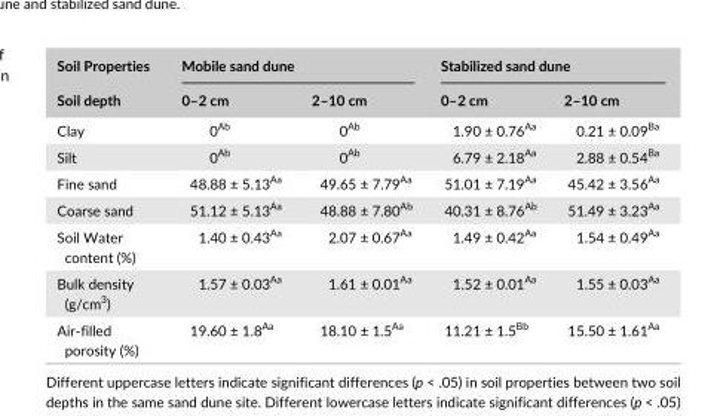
<table><thead><tr><td rowspan="2">Soil Properties Soil depth</td><td colspan="2">Mobile sand dune</td><td colspan="2">Stabilized sand dune</td></tr><tr><td>0–2 cm</td><td>2–10 cm</td><td>0–2 cm</td><td>2–10 cm</td></tr></thead><tbody><tr><td>Clay</td><td>0<sup>Ab</sup></td><td>0<sup>Ab</sup></td><td>1.90 ± 0.76<sup>Aa</sup></td><td>0.21 ± 0.09<sup>Ba</sup></td></tr><tr><td>Silt</td><td>0<sup>Ab</sup></td><td>0<sup>Ab</sup></td><td>6.79 ± 2.18<sup>Aa</sup></td><td>2.88 ± 0.54<sup>Ba</sup></td></tr><tr><td>Fine sand</td><td>48.88 ± 5.13<sup>Aa</sup></td><td>49.65 ± 7.79<sup>Aa</sup></td><td>51.01 ± 7.19<sup>Aa</sup></td><td>45.42 ± 3.56<sup>Aa</sup></td></tr><tr><td>Coarse sand</td><td>51.12 ± 5.13<sup>Aa</sup></td><td>48.88 ± 7.80<sup>Ab</sup></td><td>40.31 ± 8.76<sup>Ab</sup></td><td>51.49 ± 3.23<sup>Aa</sup></td></tr><tr><td>Soil Water content (%)</td><td>1.40 ± 0.43<sup>Aa</sup></td><td>2.07 ± 0.67<sup>Aa</sup></td><td>1.49 ± 0.42<sup>Aa</sup></td><td>1.54 ± 0.49<sup>Aa</sup></td></tr><tr><td>Bulk density (g/cm<sup>3</sup>)</td><td>1.57 ± 0.03<sup>Aa</sup></td><td>1.61 ± 0.01<sup>Aa</sup></td><td>1.52 ± 0.01<sup>Aa</sup></td><td>1.55 ± 0.03<sup>Aa</sup></td></tr><tr><td>Air- filled porosity (%)</td><td>19.60 ± 1.8<sup>Aa</sup></td><td>18.10 ± 1.5<sup>Aa</sup></td><td>11.21 ± 1.5<sup>Bb</sup></td><td>15.50 ± 1.61<sup>Aa</sup></td></tr></tbody></table>